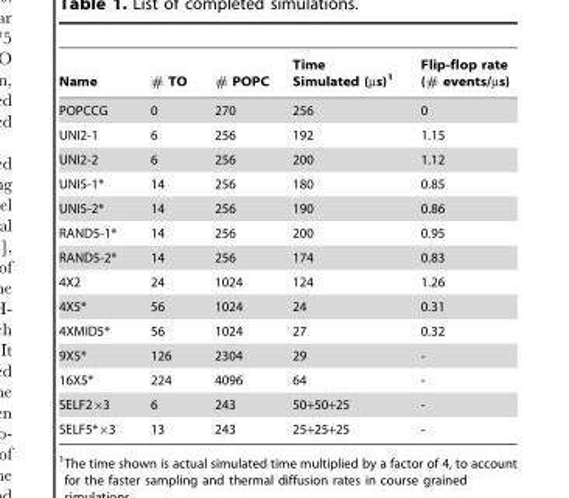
<table><thead><tr><td>Name</td><td># TO</td><td># POPC</td><td>Time Simulated (µs)<sup>1</sup></td><td>Flip-flop rate (# events/µs)</td></tr></thead><tbody><tr><td>POPCCG</td><td>0</td><td>270</td><td>256</td><td>0</td></tr><tr><td>UNI2-1</td><td>6</td><td>256</td><td>192</td><td>1.15</td></tr><tr><td>UNI2-2</td><td>6</td><td>256</td><td>200</td><td>1.12</td></tr><tr><td>UNI5-1*</td><td>14</td><td>256</td><td>180</td><td>0.85</td></tr><tr><td>UNI5-2*</td><td>14</td><td>256</td><td>190</td><td>0.86</td></tr><tr><td>RAND5-1*</td><td>14</td><td>256</td><td>200</td><td>0.95</td></tr><tr><td>RAND5-2*</td><td>14</td><td>256</td><td>174</td><td>0.83</td></tr><tr><td>4X2</td><td>24</td><td>1024</td><td>124</td><td>1.26</td></tr><tr><td>4X5*</td><td>56</td><td>1024</td><td>24</td><td>0.31</td></tr><tr><td>4XMID5*</td><td>56</td><td>1024</td><td>27</td><td>0.32</td></tr><tr><td>9X5*</td><td>126</td><td>2304</td><td>29</td><td>-</td></tr><tr><td>16X5*</td><td>224</td><td>4096</td><td>64</td><td>-</td></tr><tr><td>SELF2×3</td><td>6</td><td>243</td><td>50+50+25</td><td>-</td></tr><tr><td>SELF5*×3</td><td>13</td><td>243</td><td>25+25+25</td><td>-</td></tr></tbody></table>